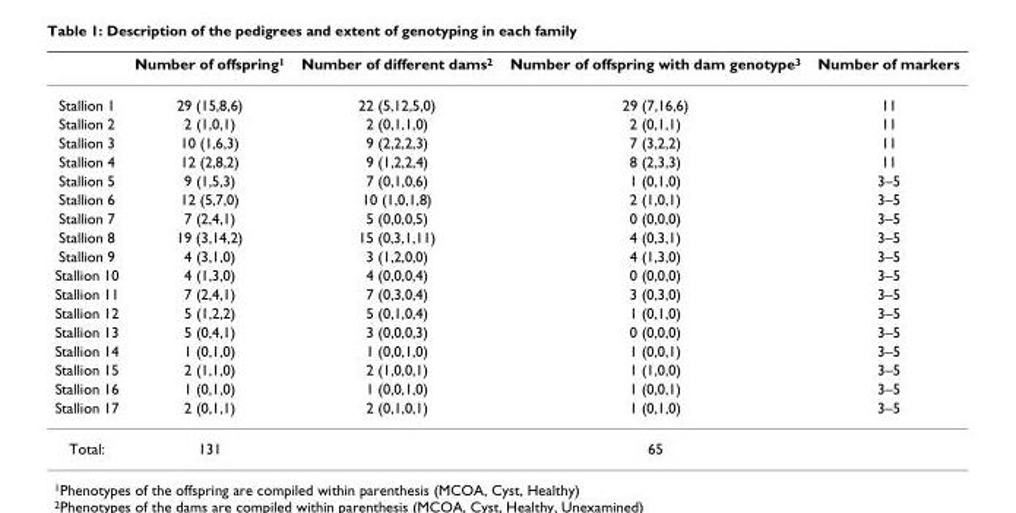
<table><thead><tr><td></td><td>Number of offspring<sup>1</sup></td><td>Number of different dams<sup>2</sup></td><td>Number of offspring with dam genotype<sup>3</sup></td><td>Number of markers</td></tr></thead><tbody><tr><td>Stallion 1</td><td>29 (15,8,6)</td><td>22 (5,12,5,0)</td><td>29 (7,16,6)</td><td>11</td></tr><tr><td>Stallion 2</td><td>2 (1,0,1)</td><td>2 (0,1,1,0)</td><td>2 (0,1,1)</td><td>11</td></tr><tr><td>Stallion 3</td><td>10 (1,6,3)</td><td>9 (2,2,2,3)</td><td>7 (3,2,2)</td><td>11</td></tr><tr><td>Stallion 4</td><td>12 (2,8,2)</td><td>9 (1,2,2,4)</td><td>8 (2,3,3)</td><td>11</td></tr><tr><td>Stallion 5</td><td>9 (1,5,3)</td><td>7 (0,1,0,6)</td><td>1 (0,1,0)</td><td>3–5</td></tr><tr><td>Stallion 6</td><td>12 (5,7,0)</td><td>10 (1,0,1,8)</td><td>2 (1,0,1)</td><td>3–5</td></tr><tr><td>Stallion 7</td><td>7 (2,4,1)</td><td>5 (0,0,0,5)</td><td>0 (0,0,0)</td><td>3–5</td></tr><tr><td>Stallion 8</td><td>19 (3,14,2)</td><td>15 (0,3,1,11)</td><td>4 (0,3,1)</td><td>3–5</td></tr><tr><td>Stallion 9</td><td>4 (3,1,0)</td><td>3 (1,2,0,0)</td><td>4 (1,3,0)</td><td>3–5</td></tr><tr><td>Stallion 10</td><td>4 (1,3,0)</td><td>4 (0,0,0,4)</td><td>0 (0,0,0)</td><td>3–5</td></tr><tr><td>Stallion 11</td><td>7 (2,4,1)</td><td>7 (0,3,0,4)</td><td>3 (0,3,0)</td><td>3–5</td></tr><tr><td>Stallion 12</td><td>5 (1,2,2)</td><td>5 (0,1,0,4)</td><td>1 (0,1,0)</td><td>3–5</td></tr><tr><td>Stallion 13</td><td>5 (0,4,1)</td><td>3 (0,0,0,3)</td><td>0 (0,0,0)</td><td>3–5</td></tr><tr><td>Stallion 14</td><td>1 (0,1,0)</td><td>1 (0,0,1,0)</td><td>1 (0,0,1)</td><td>3–5</td></tr><tr><td>Stallion 15</td><td>2 (1,1,0)</td><td>2 (1,0,0,1)</td><td>1 (1,0,0)</td><td>3–5</td></tr><tr><td>Stallion 16</td><td>1 (0,1,0)</td><td>1 (0,0,1,0)</td><td>1 (0,0,1)</td><td>3–5</td></tr><tr><td>Stallion 17</td><td>2 (0,1,1)</td><td>2 (0,1,0,1)</td><td>1 (0,1,0)</td><td>3–5</td></tr><tr><td>Total:</td><td>131</td><td></td><td>65</td><td></td></tr></tbody></table>